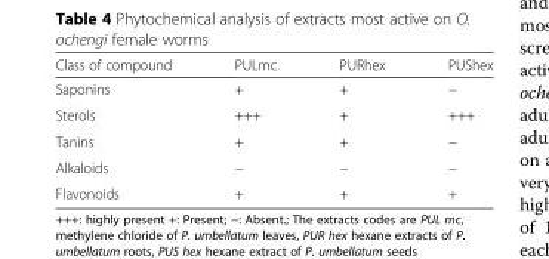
<table><thead><tr><td>Class of compound</td><td>PULmc</td><td>PURhex</td><td>PUShex</td></tr></thead><tbody><tr><td>Saponins</td><td>+</td><td>+</td><td>−</td></tr><tr><td>Sterols</td><td>+++</td><td>+</td><td>+++</td></tr><tr><td>Tanins</td><td>+</td><td>+</td><td>−</td></tr><tr><td>Alkaloids</td><td>−</td><td>−</td><td>−</td></tr><tr><td>Flavonoids</td><td>+</td><td>+</td><td>+</td></tr></tbody></table>